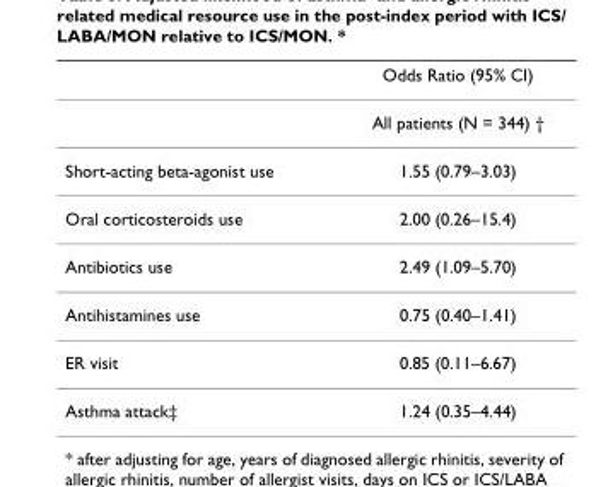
<table><thead><tr><td></td><td>Odds Ratio (95% CI)</td></tr></thead><tbody><tr><td></td><td>All patients (N = 344) †</td></tr><tr><td>Short-acting beta-agonist use</td><td>1.55 (0.79–3.03)</td></tr><tr><td>Oral corticosteroids use</td><td>2.00 (0.26–15.4)</td></tr><tr><td>Antibiotics use</td><td>2.49 (1.09–5.70)</td></tr><tr><td>Antihistamines use</td><td>0.75 (0.40–1.41)</td></tr><tr><td>ER visit</td><td>0.85 (0.11–6.67)</td></tr><tr><td>Asthma attack‡</td><td>1.24 (0.35–4.44)</td></tr></tbody></table>